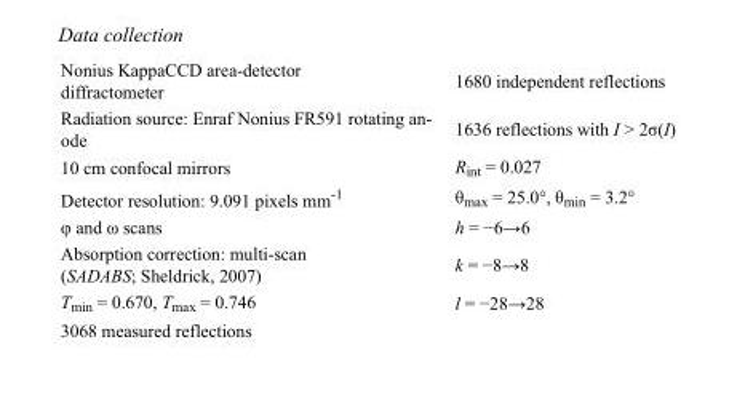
<table><tbody><tr><td>Nonius KappaCCD area-detector diffractometer</td><td>1680 independent reflections</td></tr><tr><td>Radiation source: Enraf Nonius FR591 rotating an- ode</td><td>1636 reflections with I &gt; 2σ(I)</td></tr><tr><td>10 cm confocal mirrors</td><td>R<sub>int</sub> = 0.027</td></tr><tr><td>Detector resolution: 9.091 pixels mm<sup>-1</sup></td><td>θ<sub>max</sub> = 25.0°, θ<sub>min</sub> = 3.2°</td></tr><tr><td>φ and ω scans</td><td>h = −6→6</td></tr><tr><td>Absorption correction: multi-scan (SADABS; Sheldrick, 2007)</td><td>k = −8→8</td></tr><tr><td>T<sub>min</sub> = 0.670, T<sub>max</sub> = 0.746</td><td>l = −28→28</td></tr><tr><td>3068 measured reflections</td><td></td></tr></tbody></table>